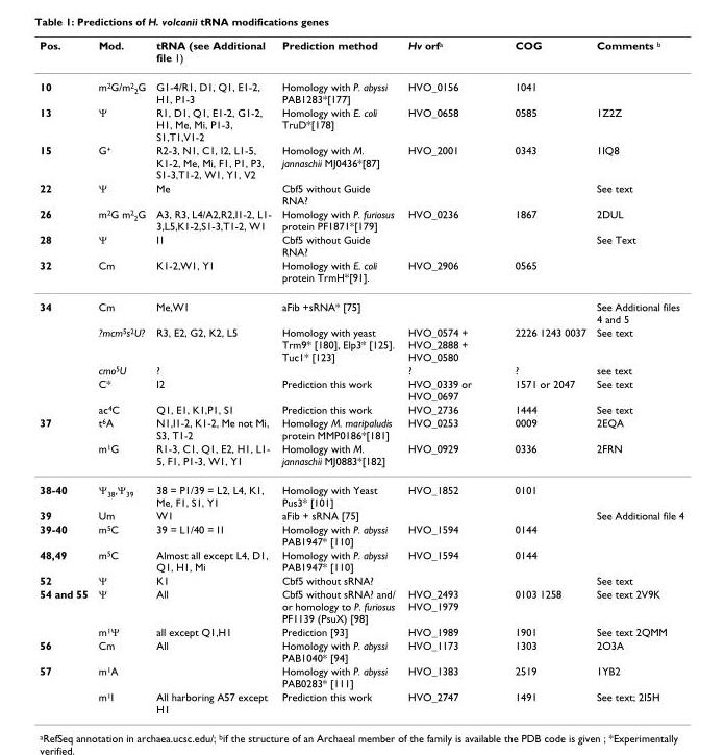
<table><thead><tr><td>Pos.</td><td>Mod.</td><td>tRNA (see Additional file 1)</td><td>Prediction method</td><td>Hv orf<sup>a</sup></td><td>COG</td><td>Comments <sup>b</sup></td></tr></thead><tbody><tr><td>10</td><td>m<sup>2</sup>G/m<sup>2</sup><sub>2</sub>G</td><td>G1-4/R1, D1, Q1, E1-2, H1, P1-3</td><td>Homology with P. abyssi PAB1283*[177]</td><td>HVO_0156</td><td>1041</td><td></td></tr><tr><td>13</td><td>Ψ</td><td>R1, D1, Q1, E1-2, G1-2, H1, Me, Mi, P1-3, S1,T1,V1-2</td><td>Homology with E. coli TruD*[178]</td><td>HVO_0658</td><td>0585</td><td>1Z2Z</td></tr><tr><td>15</td><td>G<sup>+</sup></td><td>R2-3, N1, C1, I2, L1-5, K1-2, Me, Mi, F1, P1, P3, S1-3,T1-2, W1, Y1, V2</td><td>Homology with M. jannaschii MJ0436*[87]</td><td>HVO_2001</td><td>0343</td><td>1IQ8</td></tr><tr><td>22</td><td>Ψ</td><td>Me</td><td>Cbf5 without Guide RNA?</td><td></td><td></td><td>See text</td></tr><tr><td>26</td><td>m<sup>2</sup>G m<sup>2</sup><sub>2</sub>G</td><td>A3, R3, L4/A2,R2,I1-2, L1- 3,L5,K1-2,S1-3,T1-2, W1</td><td>Homology with P. furiosus protein PF1871*[179]</td><td>HVO_0236</td><td>1867</td><td>2DUL</td></tr><tr><td>28</td><td>Ψ</td><td>I1</td><td>Cbf5 without Guide RNA?</td><td></td><td></td><td>See Text</td></tr><tr><td>32</td><td>Cm</td><td>K1-2,W1, Y1</td><td>Homology with E. coli protein TrmH*[91].</td><td>HVO_2906</td><td>0565</td><td></td></tr><tr><td rowspan="5">34</td><td>Cm</td><td>Me,W1</td><td>aFib +sRNA* [75]</td><td></td><td></td><td>See Additional files 4 and 5</td></tr><tr><td>?mcm<sup>5</sup>s<sup>2</sup>U?</td><td>R3, E2, G2, K2, L5</td><td>Homology with yeast Trm9* [180], Elp3* [125]. Tuc1* [123]</td><td>HVO_0574 + HVO_2888 + HVO_0580</td><td>2226 1243 0037</td><td>See text</td></tr><tr><td>cmo<sup>5</sup>U</td><td>?</td><td></td><td>?</td><td>?</td><td>see text</td></tr><tr><td>C*</td><td>I2</td><td>Prediction this work</td><td>HVO_0339 or HVO_0697</td><td>1571 or 2047</td><td>See text</td></tr><tr><td>ac<sup>4</sup>C</td><td>Q1, E1, K1,P1, S1</td><td>Prediction this work</td><td>HVO_2736</td><td>1444</td><td>See text</td></tr><tr><td rowspan="2">37</td><td>t<sup>6</sup>A</td><td>N1,I1-2, K1-2, Me not Mi, S3, T1-2</td><td>Homology M. maripaludis protein MMP0186*[181]</td><td>HVO_0253</td><td>0009</td><td>2EQA</td></tr><tr><td>m<sup>1</sup>G</td><td>R1-3, C1, Q1, E2, H1, L1- 5, F1, P1-3, W1, Y1</td><td>Homology with M. jannaschii MJ0883*[182]</td><td>HVO_0929</td><td>0336</td><td>2FRN</td></tr><tr><td>38-40</td><td>Ψ<sub>38</sub>,Ψ<sub>39</sub></td><td>38 = P1/39 = L2, L4, K1, Me, F1, S1, Y1</td><td>Homology with Yeast Pus3* [101]</td><td>HVO_1852</td><td>0101</td><td></td></tr><tr><td>39</td><td>Um</td><td>W1</td><td>aFib + sRNA [75]</td><td></td><td></td><td>See Additional file 4</td></tr><tr><td>39-40</td><td>m<sup>5</sup>C</td><td>39 = L1/40 = I1</td><td>Homology with P. abyssi PAB1947* [110]</td><td>HVO_1594</td><td>0144</td><td></td></tr><tr><td>48,49</td><td>m<sup>5</sup>C</td><td>Almost all except L4, D1, Q1, H1, Mi</td><td>Homology with P. abyssi PAB1947* [110]</td><td>HVO_1594</td><td>0144</td><td></td></tr><tr><td>52</td><td>Ψ</td><td>K1</td><td>Cbf5 without sRNA?</td><td></td><td></td><td>See text</td></tr><tr><td rowspan="2">54 and 55</td><td>Ψ</td><td>All</td><td>Cbf5 without sRNA? and/ or homology to P. furiosus PF1139 (PsuX) [98]</td><td>HVO_2493 HVO_1979</td><td>0103 1258</td><td>See text 2V9K</td></tr><tr><td>m<sup>1</sup>Ψ</td><td>all except Q1,H1</td><td>Prediction [93]</td><td>HVO_1989</td><td>1901</td><td>See text 2QMM</td></tr><tr><td>56</td><td>Cm</td><td>All</td><td>Homology with P. abyssi PAB1040* [94]</td><td>HVO_1173</td><td>1303</td><td>2O3A</td></tr><tr><td rowspan="2">57</td><td>m<sup>1</sup>A</td><td></td><td>Homology with P. abyssi PAB0283* [111]</td><td>HVO_1383</td><td>2519</td><td>1YB2</td></tr><tr><td>m<sup>1</sup>I</td><td>All harboring A57 except H1</td><td>Prediction this work</td><td>HVO_2747</td><td>1491</td><td>See text; 2I5H</td></tr></tbody></table>